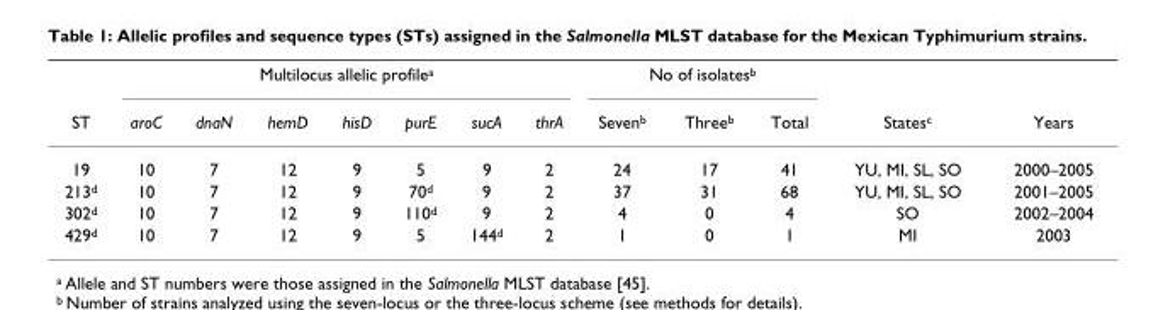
<table><thead><tr><td rowspan="2">ST</td><td colspan="7">Multilocus allelic profile<sup>a</sup></td><td colspan="3">No of isolates<sup>b</sup></td><td rowspan="2">States<sup>c</sup></td><td rowspan="2">Years</td></tr><tr><td>aroC</td><td>dnaN</td><td>hemD</td><td>hisD</td><td>purE</td><td>sucA</td><td>thrA</td><td>Seven<sup>b</sup></td><td>Three<sup>b</sup></td><td>Total</td></tr></thead><tbody><tr><td>19</td><td>10</td><td>7</td><td>12</td><td>9</td><td>5</td><td>9</td><td>2</td><td>24</td><td>17</td><td>41</td><td>YU, MI, SL, SO</td><td>2000–2005</td></tr><tr><td>213<sup>d</sup></td><td>10</td><td>7</td><td>12</td><td>9</td><td>70<sup>d</sup></td><td>9</td><td>2</td><td>37</td><td>31</td><td>68</td><td>YU, MI, SL, SO</td><td>2001–2005</td></tr><tr><td>302<sup>d</sup></td><td>10</td><td>7</td><td>12</td><td>9</td><td>110<sup>d</sup></td><td>9</td><td>2</td><td>4</td><td>0</td><td>4</td><td>SO</td><td>2002–2004</td></tr><tr><td>429<sup>d</sup></td><td>10</td><td>7</td><td>12</td><td>9</td><td>5</td><td>144<sup>d</sup></td><td>2</td><td>1</td><td>0</td><td>1</td><td>MI</td><td>2003</td></tr></tbody></table>